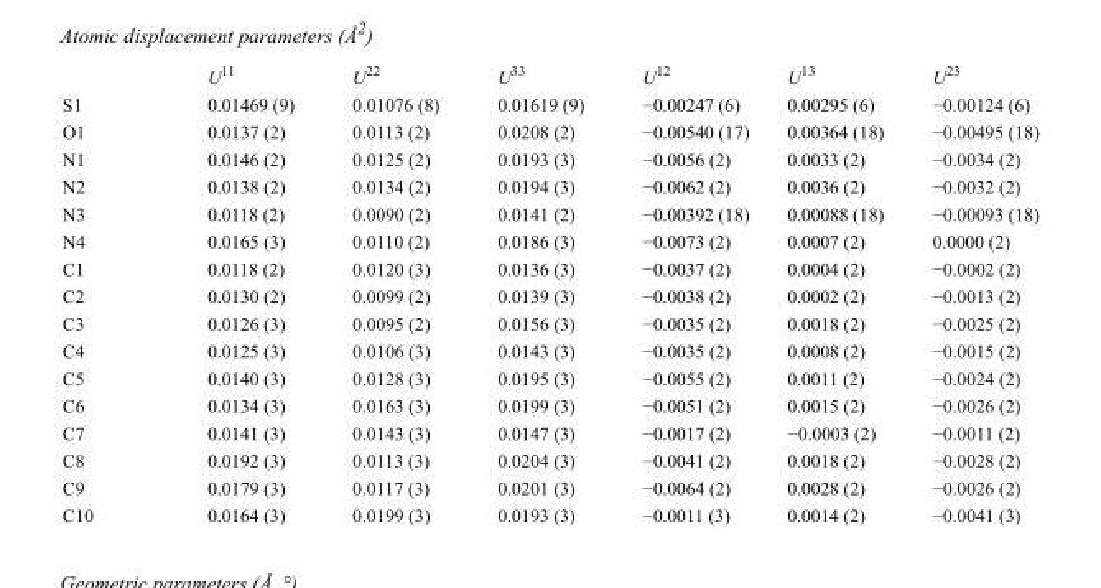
<table><thead><tr><td></td><td>U<sup>11</sup></td><td>U<sup>22</sup></td><td>U<sup>33</sup></td><td>U<sup>12</sup></td><td>U<sup>13</sup></td><td>U<sup>23</sup></td></tr></thead><tbody><tr><td>S1</td><td>0.01469 (9)</td><td>0.01076 (8)</td><td>0.01619 (9)</td><td>−0.00247 (6)</td><td>0.00295 (6)</td><td>−0.00124 (6)</td></tr><tr><td>O1</td><td>0.0137 (2)</td><td>0.0113 (2)</td><td>0.0208 (2)</td><td>−0.00540 (17)</td><td>0.00364 (18)</td><td>−0.00495 (18)</td></tr><tr><td>N1</td><td>0.0146 (2)</td><td>0.0125 (2)</td><td>0.0193 (3)</td><td>−0.0056 (2)</td><td>0.0033 (2)</td><td>−0.0034 (2)</td></tr><tr><td>N2</td><td>0.0138 (2)</td><td>0.0134 (2)</td><td>0.0194 (3)</td><td>−0.0062 (2)</td><td>0.0036 (2)</td><td>−0.0032 (2)</td></tr><tr><td>N3</td><td>0.0118 (2)</td><td>0.0090 (2)</td><td>0.0141 (2)</td><td>−0.00392 (18)</td><td>0.00088 (18)</td><td>−0.00093 (18)</td></tr><tr><td>N4</td><td>0.0165 (3)</td><td>0.0110 (2)</td><td>0.0186 (3)</td><td>−0.0073 (2)</td><td>0.0007 (2)</td><td>0.0000 (2)</td></tr><tr><td>C1</td><td>0.0118 (2)</td><td>0.0120 (3)</td><td>0.0136 (3)</td><td>−0.0037 (2)</td><td>0.0004 (2)</td><td>−0.0002 (2)</td></tr><tr><td>C2</td><td>0.0130 (2)</td><td>0.0099 (2)</td><td>0.0139 (3)</td><td>−0.0038 (2)</td><td>0.0002 (2)</td><td>−0.0013 (2)</td></tr><tr><td>C3</td><td>0.0126 (3)</td><td>0.0095 (2)</td><td>0.0156 (3)</td><td>−0.0035 (2)</td><td>0.0018 (2)</td><td>−0.0025 (2)</td></tr><tr><td>C4</td><td>0.0125 (3)</td><td>0.0106 (3)</td><td>0.0143 (3)</td><td>−0.0035 (2)</td><td>0.0008 (2)</td><td>−0.0015 (2)</td></tr><tr><td>C5</td><td>0.0140 (3)</td><td>0.0128 (3)</td><td>0.0195 (3)</td><td>−0.0055 (2)</td><td>0.0011 (2)</td><td>−0.0024 (2)</td></tr><tr><td>C6</td><td>0.0134 (3)</td><td>0.0163 (3)</td><td>0.0199 (3)</td><td>−0.0051 (2)</td><td>0.0015 (2)</td><td>−0.0026 (2)</td></tr><tr><td>C7</td><td>0.0141 (3)</td><td>0.0143 (3)</td><td>0.0147 (3)</td><td>−0.0017 (2)</td><td>−0.0003 (2)</td><td>−0.0011 (2)</td></tr><tr><td>C8</td><td>0.0192 (3)</td><td>0.0113 (3)</td><td>0.0204 (3)</td><td>−0.0041 (2)</td><td>0.0018 (2)</td><td>−0.0028 (2)</td></tr><tr><td>C9</td><td>0.0179 (3)</td><td>0.0117 (3)</td><td>0.0201 (3)</td><td>−0.0064 (2)</td><td>0.0028 (2)</td><td>−0.0026 (2)</td></tr><tr><td>C10</td><td>0.0164 (3)</td><td>0.0199 (3)</td><td>0.0193 (3)</td><td>−0.0011 (3)</td><td>0.0014 (2)</td><td>−0.0041 (3)</td></tr></tbody></table>